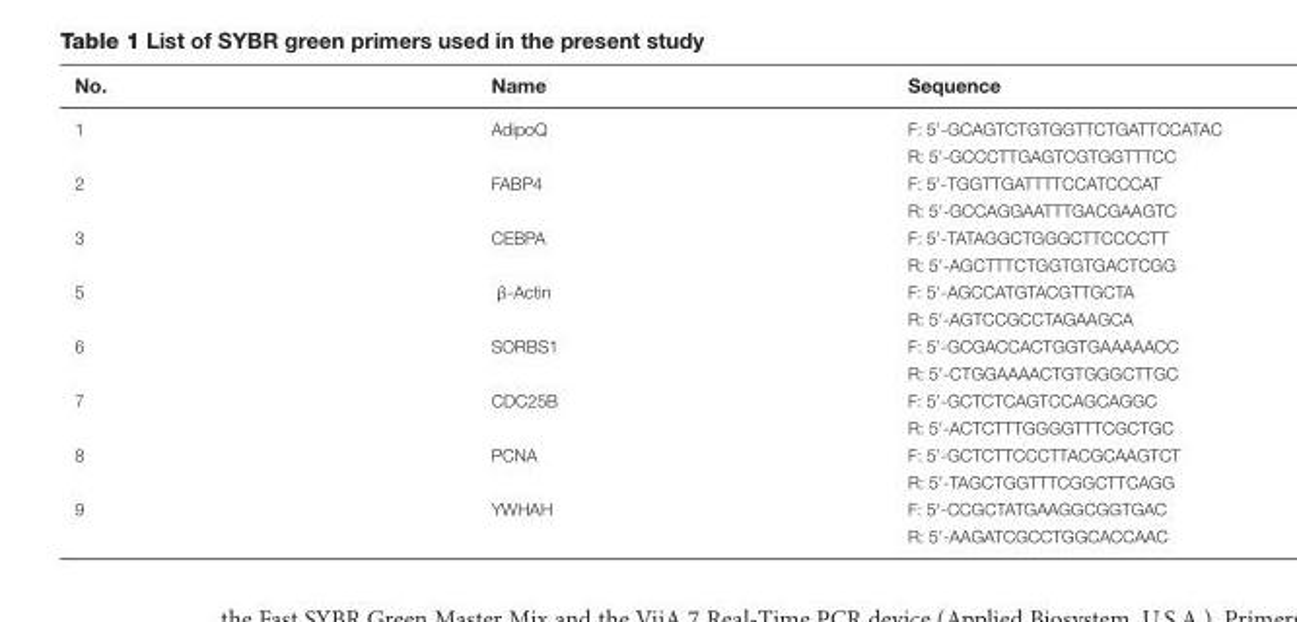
<table><thead><tr><td>No.</td><td>Name</td><td>Sequence</td></tr></thead><tbody><tr><td rowspan="2">1</td><td>AdipoQ</td><td>F: 5′-GCAGTCTGTGGTTCTGATTCCATAC</td></tr><tr><td></td><td>R: 5′-GCCCTTGAGTCGTGGTTTCC</td></tr><tr><td rowspan="2">2</td><td>FABP4</td><td>F: 5′-TGGTTGATTTTCCATCCCAT</td></tr><tr><td></td><td>R: 5′-GCCAGGAATTTGACGAAGTC</td></tr><tr><td rowspan="2">3</td><td>CEBPA</td><td>F: 5′-TATAGGCTGGGCTTCCCCTT</td></tr><tr><td></td><td>R: 5′-AGCTTTCTGGTGTGACTCGG</td></tr><tr><td rowspan="2">5</td><td>β-Actin</td><td>F: 5′-AGCCATGTACGTTGCTA</td></tr><tr><td></td><td>R: 5′-AGTCCGCCTAGAAGCA</td></tr><tr><td rowspan="2">6</td><td>SORBS1</td><td>F: 5′-GCGACCACTGGTGAAAAACC</td></tr><tr><td></td><td>R: 5′-CTGGAAAACTGTGGGCTTGC</td></tr><tr><td rowspan="2">7</td><td>CDC25B</td><td>F: 5′-GCTCTCAGTCCAGCAGGC</td></tr><tr><td></td><td>R: 5′-ACTCTTTGGGGTTTCGCTGC</td></tr><tr><td rowspan="2">8</td><td>PCNA</td><td>F: 5′-GCTCTTCCCTTACGCAAGTCT</td></tr><tr><td></td><td>R: 5′-TAGCTGGTTTCGGCTTCAGG</td></tr><tr><td rowspan="2">9</td><td>YWHAH</td><td>F: 5′-CCGCTATGAAGGCGGTGAC</td></tr><tr><td></td><td>R: 5′-AAGATCGCCTGGCACCAAC</td></tr></tbody></table>